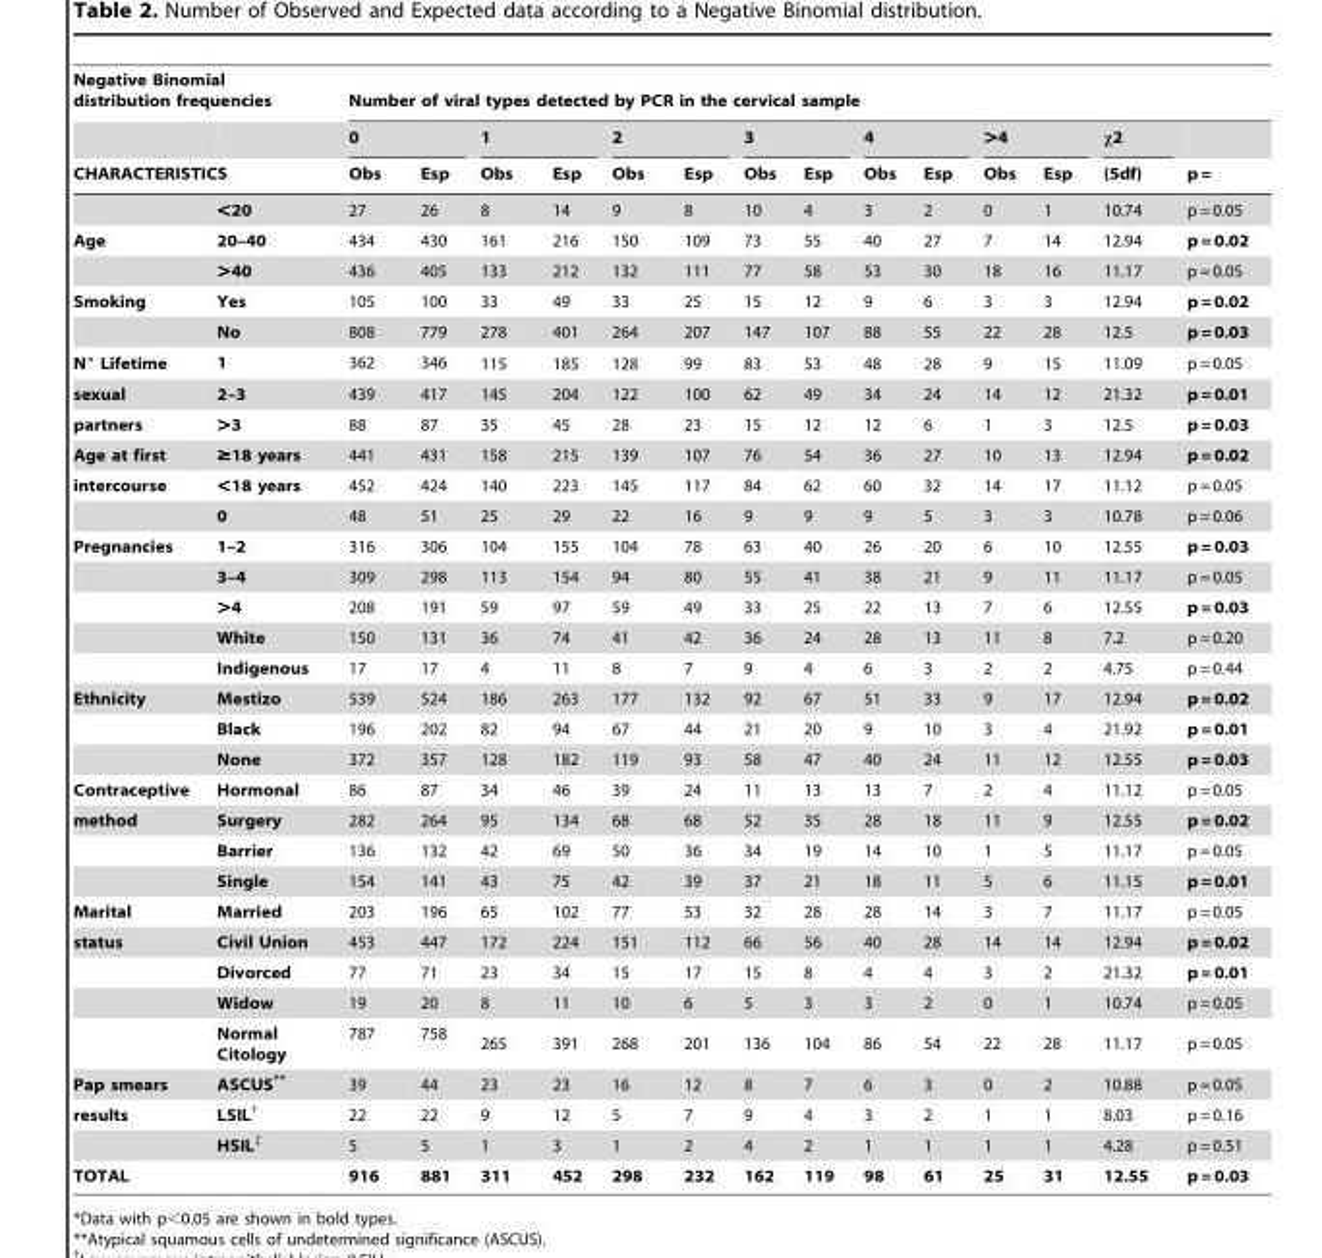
<table><thead><tr><td colspan="2">Negative Binomial distribution frequencies</td><td colspan="14">Number of viral types detected by PCR in the cervical sample</td></tr><tr><td></td><td></td><td colspan="2">0</td><td colspan="2">1</td><td colspan="2">2</td><td colspan="2">3</td><td colspan="2">4</td><td colspan="2">&gt;4</td><td rowspan="2">χ2 (5df)</td><td rowspan="2">p =</td></tr><tr><td colspan="2">CHARACTERISTICS</td><td>Obs</td><td>Esp</td><td>Obs</td><td>Esp</td><td>Obs</td><td>Esp</td><td>Obs</td><td>Esp</td><td>Obs</td><td>Esp</td><td>Obs</td><td>Esp</td></tr></thead><tbody><tr><td></td><td>&lt;20</td><td>27</td><td>26</td><td>8</td><td>14</td><td>9</td><td>8</td><td>10</td><td>4</td><td>3</td><td>2</td><td>0</td><td>1</td><td>10.74</td><td>p = 0.05</td></tr><tr><td rowspan="2">Age</td><td>20–40</td><td>434</td><td>430</td><td>161</td><td>216</td><td>150</td><td>109</td><td>73</td><td>55</td><td>40</td><td>27</td><td>7</td><td>14</td><td>12.94</td><td>p = 0.02</td></tr><tr><td>&gt;40</td><td>436</td><td>405</td><td>133</td><td>212</td><td>132</td><td>111</td><td>77</td><td>58</td><td>53</td><td>30</td><td>18</td><td>16</td><td>11.17</td><td>p = 0.05</td></tr><tr><td rowspan="2">Smoking</td><td>Yes</td><td>105</td><td>100</td><td>33</td><td>49</td><td>33</td><td>25</td><td>15</td><td>12</td><td>9</td><td>6</td><td>3</td><td>3</td><td>12.94</td><td>p = 0.02</td></tr><tr><td>No</td><td>808</td><td>779</td><td>278</td><td>401</td><td>264</td><td>207</td><td>147</td><td>107</td><td>88</td><td>55</td><td>22</td><td>28</td><td>12.5</td><td>p = 0.03</td></tr><tr><td>N° Lifetime</td><td>1</td><td>362</td><td>346</td><td>115</td><td>185</td><td>128</td><td>99</td><td>83</td><td>53</td><td>48</td><td>28</td><td>9</td><td>15</td><td>11.09</td><td>p = 0.05</td></tr><tr><td>sexual</td><td>2–3</td><td>439</td><td>417</td><td>145</td><td>204</td><td>122</td><td>100</td><td>62</td><td>49</td><td>34</td><td>24</td><td>14</td><td>12</td><td>21.32</td><td>p = 0.01</td></tr><tr><td>partners</td><td>&gt;3</td><td>88</td><td>87</td><td>35</td><td>45</td><td>28</td><td>23</td><td>15</td><td>12</td><td>12</td><td>6</td><td>1</td><td>3</td><td>12.5</td><td>p = 0.03</td></tr><tr><td>Age at first</td><td>≥18 years</td><td>441</td><td>431</td><td>158</td><td>215</td><td>139</td><td>107</td><td>76</td><td>54</td><td>36</td><td>27</td><td>10</td><td>13</td><td>12.94</td><td>p = 0.02</td></tr><tr><td rowspan="2">intercourse</td><td>&lt;18 years</td><td>452</td><td>424</td><td>140</td><td>223</td><td>145</td><td>117</td><td>84</td><td>62</td><td>60</td><td>32</td><td>14</td><td>17</td><td>11.12</td><td>p = 0.05</td></tr><tr><td>0</td><td>48</td><td>51</td><td>25</td><td>29</td><td>22</td><td>16</td><td>9</td><td>9</td><td>9</td><td>5</td><td>3</td><td>3</td><td>10.78</td><td>p = 0.06</td></tr><tr><td rowspan="5">Pregnancies</td><td>1–2</td><td>316</td><td>306</td><td>104</td><td>155</td><td>104</td><td>78</td><td>63</td><td>40</td><td>26</td><td>20</td><td>6</td><td>10</td><td>12.55</td><td>p = 0.03</td></tr><tr><td>3–4</td><td>309</td><td>298</td><td>113</td><td>154</td><td>94</td><td>80</td><td>55</td><td>41</td><td>38</td><td>21</td><td>9</td><td>11</td><td>11.17</td><td>p = 0.05</td></tr><tr><td>&gt;4</td><td>208</td><td>191</td><td>59</td><td>97</td><td>59</td><td>49</td><td>33</td><td>25</td><td>22</td><td>13</td><td>7</td><td>6</td><td>12.55</td><td>p = 0.03</td></tr><tr><td>White</td><td>150</td><td>131</td><td>36</td><td>74</td><td>41</td><td>42</td><td>36</td><td>24</td><td>28</td><td>13</td><td>11</td><td>8</td><td>7.2</td><td>p = 0.20</td></tr><tr><td>Indigenous</td><td>17</td><td>17</td><td>4</td><td>11</td><td>8</td><td>7</td><td>9</td><td>4</td><td>6</td><td>3</td><td>2</td><td>2</td><td>4.75</td><td>p = 0.44</td></tr><tr><td rowspan="3">Ethnicity</td><td>Mestizo</td><td>539</td><td>524</td><td>186</td><td>263</td><td>177</td><td>132</td><td>92</td><td>67</td><td>51</td><td>33</td><td>9</td><td>17</td><td>12.94</td><td>p = 0.02</td></tr><tr><td>Black</td><td>196</td><td>202</td><td>82</td><td>94</td><td>67</td><td>44</td><td>21</td><td>20</td><td>9</td><td>10</td><td>3</td><td>4</td><td>21.92</td><td>p = 0.01</td></tr><tr><td>None</td><td>372</td><td>357</td><td>128</td><td>182</td><td>119</td><td>93</td><td>58</td><td>47</td><td>40</td><td>24</td><td>11</td><td>12</td><td>12.55</td><td>p = 0.03</td></tr><tr><td>Contraceptive</td><td>Hormonal</td><td>86</td><td>87</td><td>34</td><td>46</td><td>39</td><td>24</td><td>11</td><td>13</td><td>13</td><td>7</td><td>2</td><td>4</td><td>11.12</td><td>p = 0.05</td></tr><tr><td rowspan="3">method</td><td>Surgery</td><td>282</td><td>264</td><td>95</td><td>134</td><td>68</td><td>68</td><td>52</td><td>35</td><td>28</td><td>18</td><td>11</td><td>9</td><td>12.55</td><td>p = 0.02</td></tr><tr><td>Barrier</td><td>136</td><td>132</td><td>42</td><td>69</td><td>50</td><td>36</td><td>34</td><td>19</td><td>14</td><td>10</td><td>1</td><td>5</td><td>11.17</td><td>p = 0.05</td></tr><tr><td>Single</td><td>154</td><td>141</td><td>43</td><td>75</td><td>42</td><td>39</td><td>37</td><td>21</td><td>18</td><td>11</td><td>5</td><td>6</td><td>11.15</td><td>p = 0.01</td></tr><tr><td>Marital</td><td>Married</td><td>203</td><td>196</td><td>65</td><td>102</td><td>77</td><td>53</td><td>32</td><td>28</td><td>28</td><td>14</td><td>3</td><td>7</td><td>11.17</td><td>p = 0.05</td></tr><tr><td rowspan="4">status</td><td>Civil Union</td><td>453</td><td>447</td><td>172</td><td>224</td><td>151</td><td>112</td><td>66</td><td>56</td><td>40</td><td>28</td><td>14</td><td>14</td><td>12.94</td><td>p = 0.02</td></tr><tr><td>Divorced</td><td>77</td><td>71</td><td>23</td><td>34</td><td>15</td><td>17</td><td>15</td><td>8</td><td>4</td><td>4</td><td>3</td><td>2</td><td>21.32</td><td>p = 0.01</td></tr><tr><td>Widow</td><td>19</td><td>20</td><td>8</td><td>11</td><td>10</td><td>6</td><td>5</td><td>3</td><td>3</td><td>2</td><td>0</td><td>1</td><td>10.74</td><td>p = 0.05</td></tr><tr><td>Normal Citology</td><td>787</td><td>758</td><td>265</td><td>391</td><td>268</td><td>201</td><td>136</td><td>104</td><td>86</td><td>54</td><td>22</td><td>28</td><td>11.17</td><td>p = 0.05</td></tr><tr><td>Pap smears</td><td>ASCUS**</td><td>39</td><td>44</td><td>23</td><td>23</td><td>16</td><td>12</td><td>8</td><td>7</td><td>6</td><td>3</td><td>0</td><td>2</td><td>10.88</td><td>p = 0.05</td></tr><tr><td rowspan="2">results</td><td>LSIL†</td><td>22</td><td>22</td><td>9</td><td>12</td><td>5</td><td>7</td><td>9</td><td>4</td><td>3</td><td>2</td><td>1</td><td>1</td><td>8.03</td><td>p = 0.16</td></tr><tr><td>HSIL‡</td><td>5</td><td>5</td><td>1</td><td>3</td><td>1</td><td>2</td><td>4</td><td>2</td><td>1</td><td>1</td><td>1</td><td>1</td><td>4.28</td><td>p = 0.51</td></tr><tr><td colspan="2">TOTAL</td><td>916</td><td>881</td><td>311</td><td>452</td><td>298</td><td>232</td><td>162</td><td>119</td><td>98</td><td>61</td><td>25</td><td>31</td><td>12.55</td><td>p = 0.03</td></tr></tbody></table>